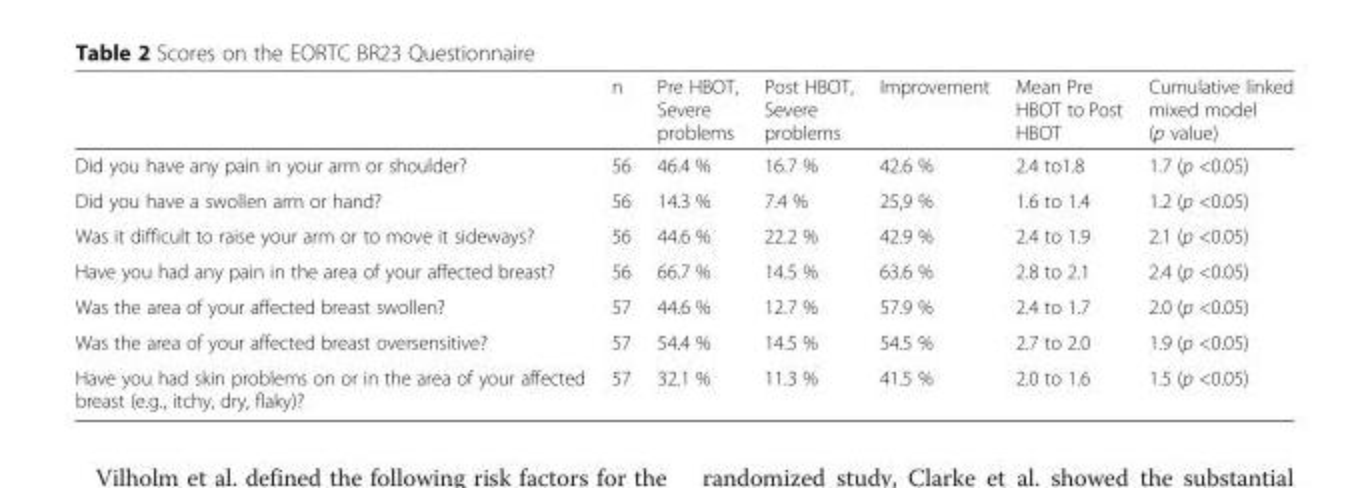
<table><thead><tr><td></td><td>n</td><td>Pre HBOT, Severe problems</td><td>Post HBOT, Severe problems</td><td>Improvement</td><td>Mean Pre HBOT to Post HBOT</td><td>Cumulative linked mixed model (p value)</td></tr></thead><tbody><tr><td>Did you have any pain in your arm or shoulder?</td><td>56</td><td>46.4 %</td><td>16.7 %</td><td>42.6 %</td><td>2.4 to1.8</td><td>1.7 (p &lt;0.05)</td></tr><tr><td>Did you have a swollen arm or hand?</td><td>56</td><td>14.3 %</td><td>7.4 %</td><td>25,9 %</td><td>1.6 to 1.4</td><td>1.2 (p &lt;0.05)</td></tr><tr><td>Was it difficult to raise your arm or to move it sideways?</td><td>56</td><td>44.6 %</td><td>22.2 %</td><td>42.9 %</td><td>2.4 to 1.9</td><td>2.1 (p &lt;0.05)</td></tr><tr><td>Have you had any pain in the area of your affected breast?</td><td>56</td><td>66.7 %</td><td>14.5 %</td><td>63.6 %</td><td>2.8 to 2.1</td><td>2.4 (p &lt;0.05)</td></tr><tr><td>Was the area of your affected breast swollen?</td><td>57</td><td>44.6 %</td><td>12.7 %</td><td>57.9 %</td><td>2.4 to 1.7</td><td>2.0 (p &lt;0.05)</td></tr><tr><td>Was the area of your affected breast oversensitive?</td><td>57</td><td>54.4 %</td><td>14.5 %</td><td>54.5 %</td><td>2.7 to 2.0</td><td>1.9 (p &lt;0.05)</td></tr><tr><td>Have you had skin problems on or in the area of your affected breast (e.g., itchy, dry, flaky)?</td><td>57</td><td>32.1 %</td><td>11.3 %</td><td>41.5 %</td><td>2.0 to 1.6</td><td>1.5 (p &lt;0.05)</td></tr></tbody></table>